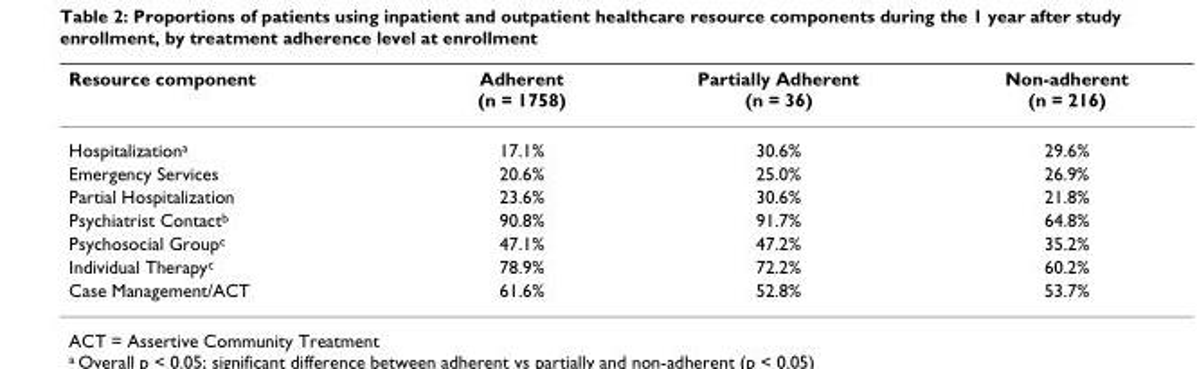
<table><thead><tr><td>Resource component</td><td>Adherent (n = 1758)</td><td>Partially Adherent (n = 36)</td><td>Non-adherent (n = 216)</td></tr></thead><tbody><tr><td>Hospitalization<sup>a</sup></td><td>17.1%</td><td>30.6%</td><td>29.6%</td></tr><tr><td>Emergency Services</td><td>20.6%</td><td>25.0%</td><td>26.9%</td></tr><tr><td>Partial Hospitalization</td><td>23.6%</td><td>30.6%</td><td>21.8%</td></tr><tr><td>Psychiatrist Contact<sup>b</sup></td><td>90.8%</td><td>91.7%</td><td>64.8%</td></tr><tr><td>Psychosocial Group<sup>c</sup></td><td>47.1%</td><td>47.2%</td><td>35.2%</td></tr><tr><td>Individual Therapy<sup>c</sup></td><td>78.9%</td><td>72.2%</td><td>60.2%</td></tr><tr><td>Case Management/ACT</td><td>61.6%</td><td>52.8%</td><td>53.7%</td></tr></tbody></table>